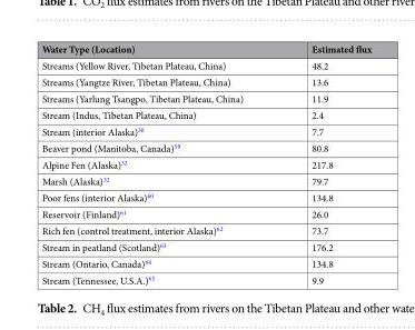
<table><thead><tr><td>Water Type (Location)</td><td>Estimated flux</td></tr></thead><tbody><tr><td>Streams (Yellow River, Tibetan Plateau, China)</td><td>48.2</td></tr><tr><td>Streams (Yangtze River, Tibetan Plateau, China)</td><td>13.6</td></tr><tr><td>Streams (Yarlung Tsangpo, Tibetan Plateau, China)</td><td>11.9</td></tr><tr><td>Stream (Indus, Tibetan Plateau, China)</td><td>2.4</td></tr><tr><td>Stream (interior Alaska)<sup>30</sup></td><td>7.7</td></tr><tr><td>Beaver pond (Manitoba, Canada)<sup>59</sup></td><td>80.8</td></tr><tr><td>Alpine Fen (Alaska)<sup>32</sup></td><td>217.8</td></tr><tr><td>Marsh (Alaska)<sup>32</sup></td><td>79.7</td></tr><tr><td>Poor fens (interior Alaska)<sup>60</sup></td><td>134.8</td></tr><tr><td>Reservoir (Finland)<sup>61</sup></td><td>26.0</td></tr><tr><td>Rich fen (control treatment, interior Alaska)<sup>62</sup></td><td>73.7</td></tr><tr><td>Stream in peatland (Scotland)<sup>63</sup></td><td>176.2</td></tr><tr><td>Stream (Ontario, Canada)<sup>64</sup></td><td>134.8</td></tr><tr><td>Stream (Tennessee, U.S.A.)<sup>65</sup></td><td>9.9</td></tr></tbody></table>